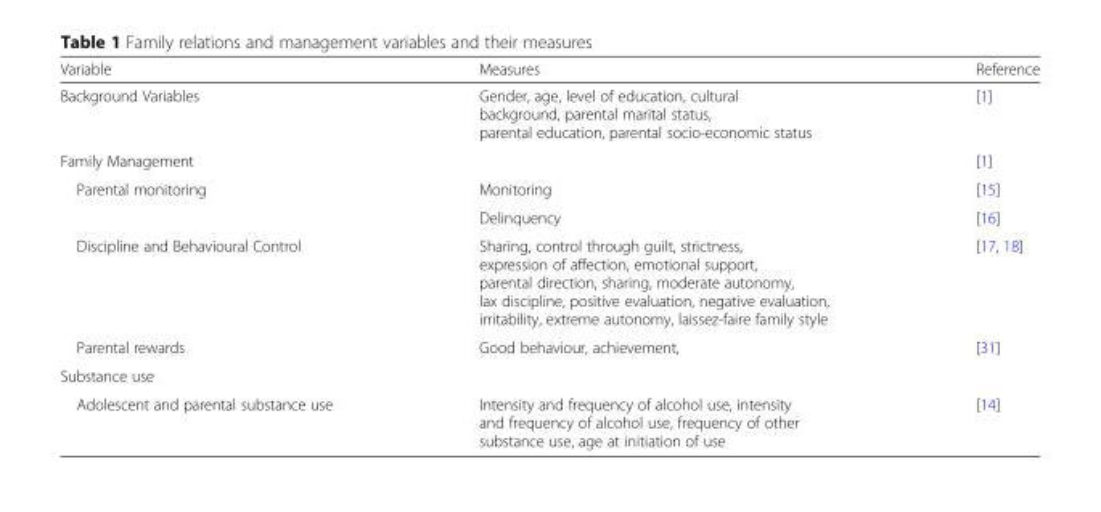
<table><thead><tr><td>Variable</td><td>Measures</td><td>Reference</td></tr></thead><tbody><tr><td>Background Variables</td><td>Gender, age, level of education, cultural background, parental marital status, parental education, parental socio-economic status</td><td>[1]</td></tr><tr><td>Family Management</td><td></td><td>[1]</td></tr><tr><td rowspan="2">Parental monitoring</td><td>Monitoring</td><td>[15]</td></tr><tr><td>Delinquency</td><td>[16]</td></tr><tr><td>Discipline and Behavioural Control</td><td>Sharing, control through guilt, strictness, expression of affection, emotional support, parental direction, sharing, moderate autonomy, lax discipline, positive evaluation, negative evaluation, irritability, extreme autonomy, laissez-faire family style</td><td>[17, 18]</td></tr><tr><td>Parental rewards</td><td>Good behaviour, achievement,</td><td>[31]</td></tr><tr><td colspan="3">Substance use</td></tr><tr><td>Adolescent and parental substance use</td><td>Intensity and frequency of alcohol use, intensity and frequency of alcohol use, frequency of other substance use, age at initiation of use</td><td>[14]</td></tr></tbody></table>